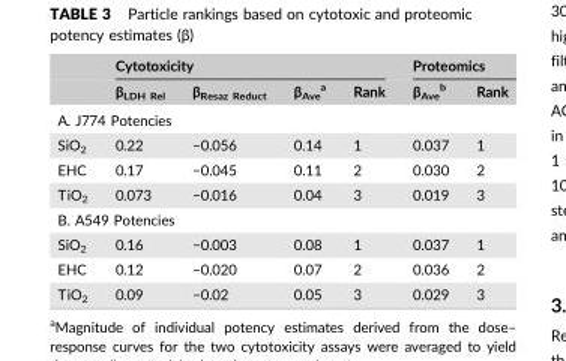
<table><thead><tr><td rowspan="2"></td><td colspan="4">Cytotoxicity</td><td colspan="2">Proteomics</td></tr><tr><td>β<sub>LDH Rel</sub></td><td>β<sub>Resaz Reduct</sub></td><td>β<sub>Ave</sub> a</td><td>Rank</td><td>β<sub>Ave</sub> b</td><td>Rank</td></tr></thead><tbody><tr><td colspan="7">A. J774 Potencies</td></tr><tr><td>SiO<sub>2</sub></td><td>0.22</td><td>−0.056</td><td>0.14</td><td>1</td><td>0.037</td><td>1</td></tr><tr><td>EHC</td><td>0.17</td><td>−0.045</td><td>0.11</td><td>2</td><td>0.030</td><td>2</td></tr><tr><td>TiO<sub>2</sub></td><td>0.073</td><td>−0.016</td><td>0.04</td><td>3</td><td>0.019</td><td>3</td></tr><tr><td colspan="7">B. A549 Potencies</td></tr><tr><td>SiO<sub>2</sub></td><td>0.16</td><td>−0.003</td><td>0.08</td><td>1</td><td>0.037</td><td>1</td></tr><tr><td>EHC</td><td>0.12</td><td>−0.020</td><td>0.07</td><td>2</td><td>0.036</td><td>2</td></tr><tr><td>TiO<sub>2</sub></td><td>0.09</td><td>−0.02</td><td>0.05</td><td>3</td><td>0.029</td><td>3</td></tr></tbody></table>